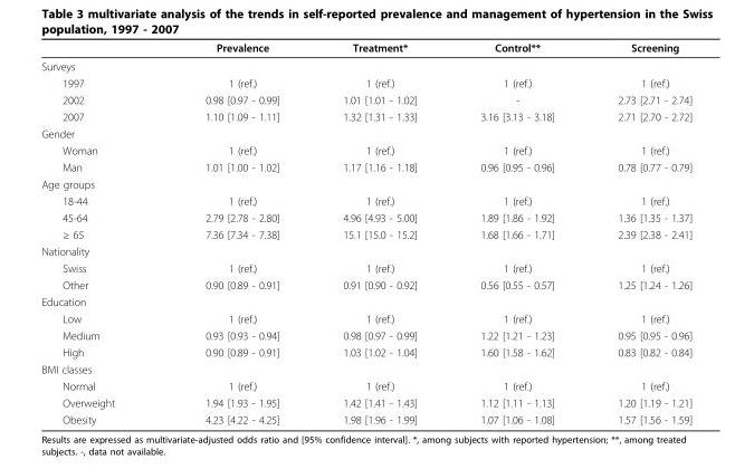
<table><thead><tr><td></td><td>Prevalence</td><td>Treatment*</td><td>Control**</td><td>Screening</td></tr></thead><tbody><tr><td colspan="5">Surveys</td></tr><tr><td>1997</td><td>1 (ref.)</td><td>1 (ref.)</td><td>1 (ref.)</td><td>1 (ref.)</td></tr><tr><td>2002</td><td>0.98 [0.97 - 0.99]</td><td>1.01 [1.01 - 1.02]</td><td>-</td><td>2.73 [2.71 - 2.74]</td></tr><tr><td>2007</td><td>1.10 [1.09 - 1.11]</td><td>1.32 [1.31 - 1.33]</td><td>3.16 [3.13 - 3.18]</td><td>2.71 [2.70 - 2.72]</td></tr><tr><td colspan="5">Gender</td></tr><tr><td>Woman</td><td>1 (ref.)</td><td>1 (ref.)</td><td>1 (ref.)</td><td>1 (ref.)</td></tr><tr><td>Man</td><td>1.01 [1.00 - 1.02]</td><td>1.17 [1.16 - 1.18]</td><td>0.96 [0.95 - 0.96]</td><td>0.78 [0.77 - 0.79]</td></tr><tr><td colspan="5">Age groups</td></tr><tr><td>18-44</td><td>1 (ref.)</td><td>1 (ref.)</td><td>1 (ref.)</td><td>1 (ref.)</td></tr><tr><td>45-64</td><td>2.79 [2.78 - 2.80]</td><td>4.96 [4.93 - 5.00]</td><td>1.89 [1.86 - 1.92]</td><td>1.36 [1.35 - 1.37]</td></tr><tr><td>≥ 65</td><td>7.36 [7.34 - 7.38]</td><td>15.1 [15.0 - 15.2]</td><td>1.68 [1.66 - 1.71]</td><td>2.39 [2.38 - 2.41]</td></tr><tr><td colspan="5">Nationality</td></tr><tr><td>Swiss</td><td>1 (ref.)</td><td>1 (ref.)</td><td>1 (ref.)</td><td>1 (ref.)</td></tr><tr><td>Other</td><td>0.90 [0.89 - 0.91]</td><td>0.91 [0.90 - 0.92]</td><td>0.56 [0.55 - 0.57]</td><td>1.25 [1.24 - 1.26]</td></tr><tr><td colspan="5">Education</td></tr><tr><td>Low</td><td>1 (ref.)</td><td>1 (ref.)</td><td>1 (ref.)</td><td>1 (ref.)</td></tr><tr><td>Medium</td><td>0.93 [0.93 - 0.94]</td><td>0.98 [0.97 - 0.99]</td><td>1.22 [1.21 - 1.23]</td><td>0.95 [0.95 - 0.96]</td></tr><tr><td>High</td><td>0.90 [0.89 - 0.91]</td><td>1.03 [1.02 - 1.04]</td><td>1.60 [1.58 - 1.62]</td><td>0.83 [0.82 - 0.84]</td></tr><tr><td colspan="5">BMI classes</td></tr><tr><td>Normal</td><td>1 (ref.)</td><td>1 (ref.)</td><td>1 (ref.)</td><td>1 (ref.)</td></tr><tr><td>Overweight</td><td>1.94 [1.93 - 1.95]</td><td>1.42 [1.41 - 1.43]</td><td>1.12 [1.11 - 1.13]</td><td>1.20 [1.19 - 1.21]</td></tr><tr><td>Obesity</td><td>4.23 [4.22 - 4.25]</td><td>1.98 [1.96 - 1.99]</td><td>1.07 [1.06 - 1.08]</td><td>1.57 [1.56 - 1.59]</td></tr></tbody></table>